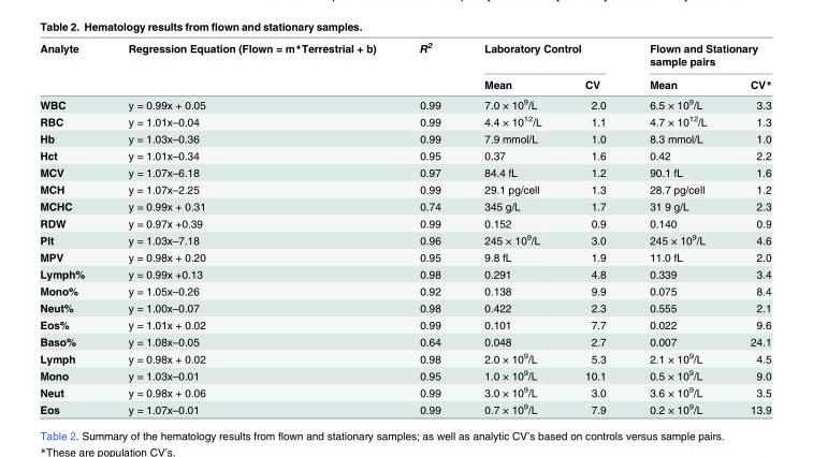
<table><thead><tr><td rowspan="2">Analyte</td><td rowspan="2">Regression Equation (Flown = m*Terrestrial + b)</td><td rowspan="2">R<sup>2</sup></td><td colspan="2">Laboratory Control</td><td colspan="2">Flown and Stationary sample pairs</td></tr><tr><td>Mean</td><td>CV</td><td>Mean</td><td>CV*</td></tr></thead><tbody><tr><td>WBC</td><td>y = 0.99x + 0.05</td><td>0.99</td><td>7.0 × 10<sup>9</sup>/L</td><td>2.0</td><td>6.5 × 10<sup>9</sup>/L</td><td>3.3</td></tr><tr><td>RBC</td><td>y = 1.01x–0.04</td><td>0.99</td><td>4.4 × 10<sup>12</sup>/L</td><td>1.1</td><td>4.7 × 10<sup>12</sup>/L</td><td>1.3</td></tr><tr><td>Hb</td><td>y = 1.03x–0.36</td><td>0.99</td><td>7.9 mmol/L</td><td>1.0</td><td>8.3 mmol/L</td><td>1.0</td></tr><tr><td>Hct</td><td>y = 1.01x–0.34</td><td>0.95</td><td>0.37</td><td>1.6</td><td>0.42</td><td>2.2</td></tr><tr><td>MCV</td><td>y = 1.07x–6.18</td><td>0.97</td><td>84.4 fL</td><td>1.2</td><td>90.1 fL</td><td>1.6</td></tr><tr><td>MCH</td><td>y = 1.07x–2.25</td><td>0.99</td><td>29.1 pg/cell</td><td>1.3</td><td>28.7 pg/cell</td><td>1.2</td></tr><tr><td>MCHC</td><td>y = 0.99x + 0.31</td><td>0.74</td><td>345 g/L</td><td>1.7</td><td>31 9 g/L</td><td>2.3</td></tr><tr><td>RDW</td><td>y = 0.97x +0.39</td><td>0.99</td><td>0.152</td><td>0.9</td><td>0.140</td><td>0.9</td></tr><tr><td>Plt</td><td>y = 1.03x–7.18</td><td>0.96</td><td>245 × 10<sup>9</sup>/L</td><td>3.0</td><td>245 × 10<sup>9</sup>/L</td><td>4.6</td></tr><tr><td>MPV</td><td>y = 0.98x + 0.20</td><td>0.95</td><td>9.8 fL</td><td>1.9</td><td>11.0 fL</td><td>2.0</td></tr><tr><td>Lymph%</td><td>y = 0.99x +0.13</td><td>0.98</td><td>0.291</td><td>4.8</td><td>0.339</td><td>3.4</td></tr><tr><td>Mono%</td><td>y = 1.05x–0.26</td><td>0.92</td><td>0.138</td><td>9.9</td><td>0.075</td><td>8.4</td></tr><tr><td>Neut%</td><td>y = 1.00x–0.07</td><td>0.98</td><td>0.422</td><td>2.3</td><td>0.555</td><td>2.1</td></tr><tr><td>Eos%</td><td>y = 1.01x + 0.02</td><td>0.99</td><td>0.101</td><td>7.7</td><td>0.022</td><td>9.6</td></tr><tr><td>Baso%</td><td>y = 1.08x–0.05</td><td>0.64</td><td>0.048</td><td>2.7</td><td>0.007</td><td>24.1</td></tr><tr><td>Lymph</td><td>y = 0.98x + 0.02</td><td>0.98</td><td>2.0 × 10<sup>9</sup>/L</td><td>5.3</td><td>2.1 × 10<sup>9</sup>/L</td><td>4.5</td></tr><tr><td>Mono</td><td>y = 1.03x–0.01</td><td>0.95</td><td>1.0 × 10<sup>9</sup>/L</td><td>10.1</td><td>0.5 × 10<sup>9</sup>/L</td><td>9.0</td></tr><tr><td>Neut</td><td>y = 0.98x + 0.06</td><td>0.99</td><td>3.0 × 10<sup>9</sup>/L</td><td>3.0</td><td>3.6 × 10<sup>9</sup>/L</td><td>3.5</td></tr><tr><td>Eos</td><td>y = 1.07x–0.01</td><td>0.99</td><td>0.7 × 10<sup>9</sup>/L</td><td>7.9</td><td>0.2 × 10<sup>9</sup>/L</td><td>13.9</td></tr></tbody></table>